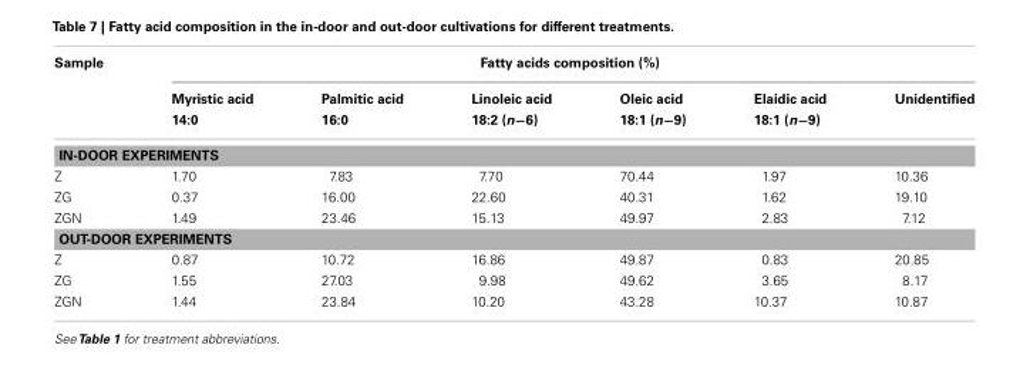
<table><thead><tr><td rowspan="3">Sample</td><td colspan="6">Fatty acids composition (%)</td></tr><tr><td rowspan="2">Myristic acid 14:0</td><td rowspan="2">Palmitic acid 16:0</td><td rowspan="2">Linoleic acid 18:2 (n−6)</td><td rowspan="2">Oleic acid 18:1 (n−9)</td><td rowspan="2">Elaidic acid 18:1 (n−9)</td><td rowspan="2">Unidentified</td></tr><tr></tr></thead><tbody><tr><td colspan="7">IN-DOOR EXPERIMENTS</td></tr><tr><td>Z</td><td>1.70</td><td>7.83</td><td>7.70</td><td>70.44</td><td>1.97</td><td>10.36</td></tr><tr><td>ZG</td><td>0.37</td><td>16.00</td><td>22.60</td><td>40.31</td><td>1.62</td><td>19.10</td></tr><tr><td>ZGN</td><td>1.49</td><td>23.46</td><td>15.13</td><td>49.97</td><td>2.83</td><td>7.12</td></tr><tr><td colspan="7">OUT-DOOR EXPERIMENTS</td></tr><tr><td>Z</td><td>0.87</td><td>10.72</td><td>16.86</td><td>49.87</td><td>0.83</td><td>20.85</td></tr><tr><td>ZG</td><td>1.55</td><td>27.03</td><td>9.98</td><td>49.62</td><td>3.65</td><td>8.17</td></tr><tr><td>ZGN</td><td>1.44</td><td>23.84</td><td>10.20</td><td>43.28</td><td>10.37</td><td>10.87</td></tr></tbody></table>